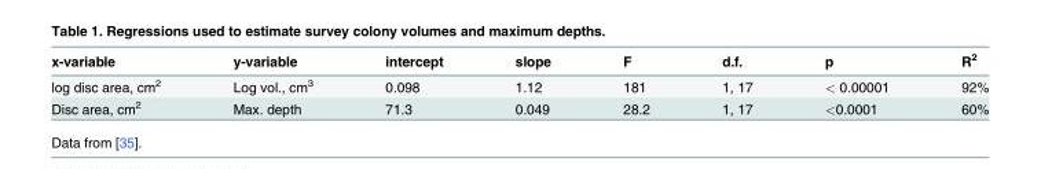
<table><thead><tr><td>x-variable</td><td>y-variable</td><td>intercept</td><td>slope</td><td>F</td><td>d.f.</td><td>p</td><td>R<sup>2</sup></td></tr></thead><tbody><tr><td>log disc area, cm<sup>2</sup></td><td>Log vol., cm<sup>3</sup></td><td>0.098</td><td>1.12</td><td>181</td><td>1, 17</td><td>&lt; 0.00001</td><td>92%</td></tr><tr><td>Disc area, cm<sup>2</sup></td><td>Max. depth</td><td>71.3</td><td>0.049</td><td>28.2</td><td>1, 17</td><td>&lt;0.0001</td><td>60%</td></tr></tbody></table>